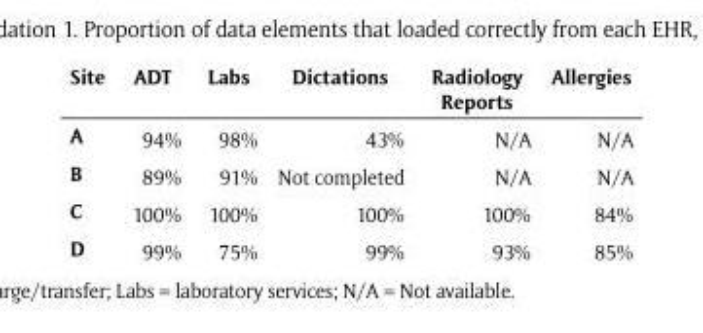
<table><thead><tr><td>Site</td><td>ADT</td><td>Labs</td><td>Dictations</td><td>Radiology Reports</td><td>Allergies</td></tr></thead><tbody><tr><td>A</td><td>94%</td><td>98%</td><td>43%</td><td>N/A</td><td>N/A</td></tr><tr><td>B</td><td>89%</td><td>91%</td><td>Not completed</td><td>N/A</td><td>N/A</td></tr><tr><td>C</td><td>100%</td><td>100%</td><td>100%</td><td>100%</td><td>84%</td></tr><tr><td>D</td><td>99%</td><td>75%</td><td>99%</td><td>93%</td><td>85%</td></tr></tbody></table>